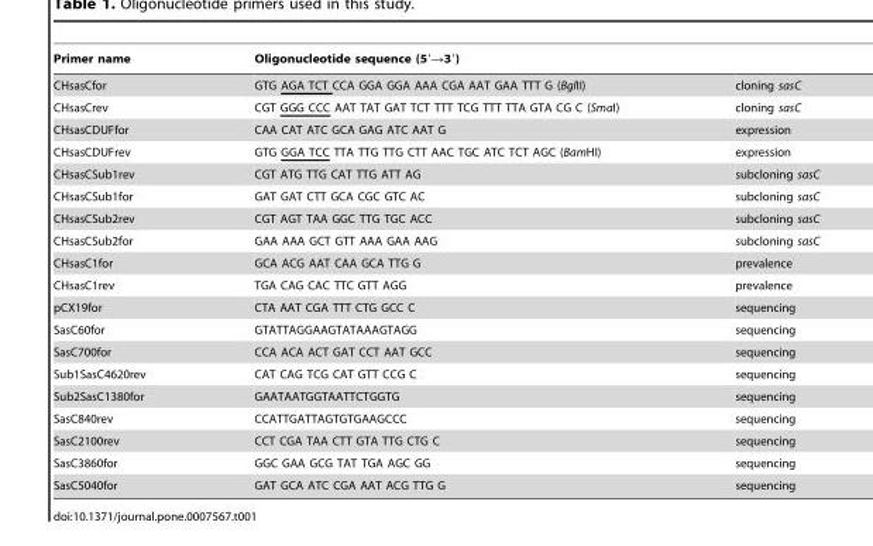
<table><thead><tr><td>Primer name</td><td>Oligonucleotide sequence (5′→3′)</td><td></td></tr></thead><tbody><tr><td>CHsasCfor</td><td>GTG AGA TCT CCA GGA GGA AAA CGA AAT GAA TTT G (BglII)</td><td>cloning sasC</td></tr><tr><td>CHsasCrev</td><td>CGT GGG CCC AAT TAT GAT TCT TTT TCG TTT TTA GTA CG C (SmaI)</td><td>cloning sasC</td></tr><tr><td>CHsasCDUFfor</td><td>CAA CAT ATC GCA GAG ATC AAT G</td><td>expression</td></tr><tr><td>CHsasCDUFrev</td><td>GTG GGA TCC TTA TTG TTG CTT AAC TGC ATC TCT AGC (BamHI)</td><td>expression</td></tr><tr><td>CHsasCSub1rev</td><td>CGT ATG TTG CAT TTG ATT AG</td><td>subcloning sasC</td></tr><tr><td>CHsasCSub1for</td><td>GAT GAT CTT GCA CGC GTC AC</td><td>subcloning sasC</td></tr><tr><td>CHsasCSub2rev</td><td>CGT AGT TAA GGC TTG TGC ACC</td><td>subcloning sasC</td></tr><tr><td>CHsasCSub2for</td><td>GAA AAA GCT GTT AAA GAA AAG</td><td>subcloning sasC</td></tr><tr><td>CHsasC1for</td><td>GCA ACG AAT CAA GCA TTG G</td><td>prevalence</td></tr><tr><td>CHsasC1rev</td><td>TGA CAG CAC TTC GTT AGG</td><td>prevalence</td></tr><tr><td>pCX19for</td><td>CTA AAT CGA TTT CTG GCC C</td><td>sequencing</td></tr><tr><td>SasC60for</td><td>GTATTAGGAAGTATAAAGTAGG</td><td>sequencing</td></tr><tr><td>SasC700for</td><td>CCA ACA ACT GAT CCT AAT GCC</td><td>sequencing</td></tr><tr><td>Sub1SasC4620rev</td><td>CAT CAG TCG CAT GTT CCG C</td><td>sequencing</td></tr><tr><td>Sub2SasC1380for</td><td>GAATAATGGTAATTCTGGTG</td><td>sequencing</td></tr><tr><td>SasC840rev</td><td>CCATTGATTAGTGTGAAGCCC</td><td>sequencing</td></tr><tr><td>SasC2100rev</td><td>CCT CGA TAA CTT GTA TTG CTG C</td><td>sequencing</td></tr><tr><td>SasC3860for</td><td>GGC GAA GCG TAT TGA AGC GG</td><td>sequencing</td></tr><tr><td>SasC5040for</td><td>GAT GCA ATC CGA AAT ACG TTG G</td><td>sequencing</td></tr></tbody></table>